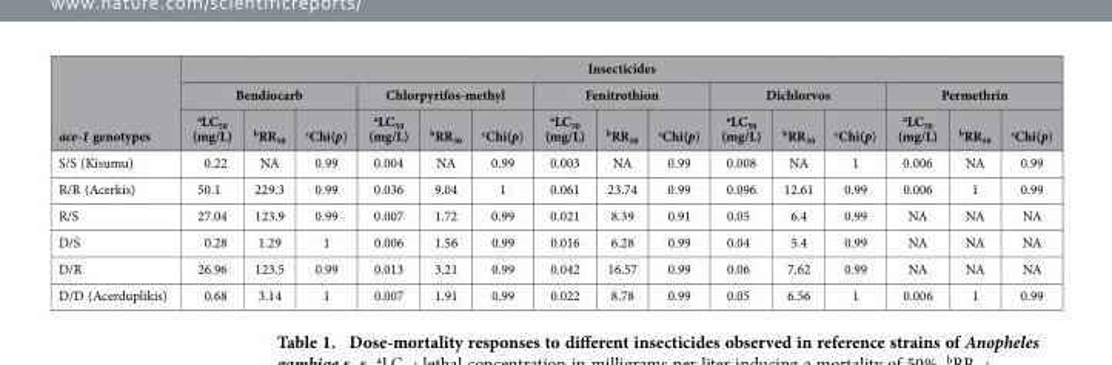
<table><thead><tr><td rowspan="3">ace-1 genotypes</td><td colspan="15">Insecticides</td></tr><tr><td colspan="3">Bendiocarb</td><td colspan="3">Chlorpyrifos-methyl</td><td colspan="3">Fenitrothion</td><td colspan="3">Dichlorvos</td><td colspan="3">Permethrin</td></tr><tr><td>aLC<sub>50</sub> (mg/L)</td><td>bRR<sub>50</sub></td><td>cChi(p)</td><td>aLC<sub>50</sub> (mg/L)</td><td>bRR<sub>50</sub></td><td>cChi(p)</td><td>aLC<sub>50</sub> (mg/L)</td><td>bRR<sub>50</sub></td><td>cChi(p)</td><td>aLC<sub>50</sub> (mg/L)</td><td>bRR<sub>50</sub></td><td>cChi(p)</td><td>aLC<sub>50</sub> (mg/L)</td><td>bRR<sub>50</sub></td><td>cChi(p)</td></tr></thead><tbody><tr><td>S/S (Kisumu)</td><td>0.22</td><td>NA</td><td>0.99</td><td>0.004</td><td>NA</td><td>0.99</td><td>0.003</td><td>NA</td><td>0.99</td><td>0.008</td><td>NA</td><td>1</td><td>0.006</td><td>NA</td><td>0.99</td></tr><tr><td>R/R (Acerkis)</td><td>50.1</td><td>229.3</td><td>0.99</td><td>0.036</td><td>9.04</td><td>1</td><td>0.061</td><td>23.74</td><td>0.99</td><td>0.096</td><td>12.61</td><td>0.99</td><td>0.006</td><td>1</td><td>0.99</td></tr><tr><td>R/S</td><td>27.04</td><td>123.9</td><td>0.99</td><td>0.007</td><td>1.72</td><td>0.99</td><td>0.021</td><td>8.39</td><td>0.91</td><td>0.05</td><td>6.4</td><td>0.99</td><td>NA</td><td>NA</td><td>NA</td></tr><tr><td>D/S</td><td>0.28</td><td>1.29</td><td>1</td><td>0.006</td><td>1.56</td><td>0.99</td><td>0.016</td><td>6.28</td><td>0.99</td><td>0.04</td><td>5.4</td><td>0.99</td><td>NA</td><td>NA</td><td>NA</td></tr><tr><td>D/R</td><td>26.96</td><td>123.5</td><td>0.99</td><td>0.013</td><td>3.21</td><td>0.99</td><td>0.042</td><td>16.57</td><td>0.99</td><td>0.06</td><td>7.62</td><td>0.99</td><td>NA</td><td>NA</td><td>NA</td></tr><tr><td>D/D (Acerduplikis)</td><td>0.68</td><td>3.14</td><td>1</td><td>0.007</td><td>1.91</td><td>0.99</td><td>0.022</td><td>8.78</td><td>0.99</td><td>0.05</td><td>6.56</td><td>1</td><td>0.006</td><td>1</td><td>0.99</td></tr></tbody></table>